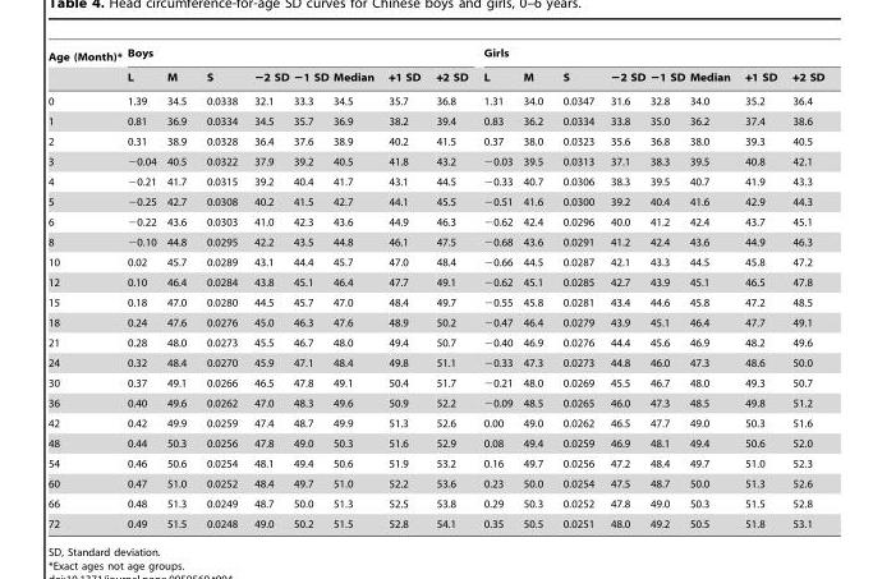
<table><thead><tr><td rowspan="2">Age (Month)*</td><td colspan="8">Boys</td><td colspan="8">Girls</td></tr><tr><td>L</td><td>M</td><td>S</td><td>−2 SD</td><td>−1 SD</td><td>Median</td><td>+1 SD</td><td>+2 SD</td><td>L</td><td>M</td><td>S</td><td>−2 SD</td><td>−1 SD</td><td>Median</td><td>+1 SD</td><td>+2 SD</td></tr></thead><tbody><tr><td>0</td><td>1.39</td><td>34.5</td><td>0.0338</td><td>32.1</td><td>33.3</td><td>34.5</td><td>35.7</td><td>36.8</td><td>1.31</td><td>34.0</td><td>0.0347</td><td>31.6</td><td>32.8</td><td>34.0</td><td>35.2</td><td>36.4</td></tr><tr><td>1</td><td>0.81</td><td>36.9</td><td>0.0334</td><td>34.5</td><td>35.7</td><td>36.9</td><td>38.2</td><td>39.4</td><td>0.83</td><td>36.2</td><td>0.0334</td><td>33.8</td><td>35.0</td><td>36.2</td><td>37.4</td><td>38.6</td></tr><tr><td>2</td><td>0.31</td><td>38.9</td><td>0.0328</td><td>36.4</td><td>37.6</td><td>38.9</td><td>40.2</td><td>41.5</td><td>0.37</td><td>38.0</td><td>0.0323</td><td>35.6</td><td>36.8</td><td>38.0</td><td>39.3</td><td>40.5</td></tr><tr><td>3</td><td>−0.04</td><td>40.5</td><td>0.0322</td><td>37.9</td><td>39.2</td><td>40.5</td><td>41.8</td><td>43.2</td><td>−0.03</td><td>39.5</td><td>0.0313</td><td>37.1</td><td>38.3</td><td>39.5</td><td>40.8</td><td>42.1</td></tr><tr><td>4</td><td>−0.21</td><td>41.7</td><td>0.0315</td><td>39.2</td><td>40.4</td><td>41.7</td><td>43.1</td><td>44.5</td><td>−0.33</td><td>40.7</td><td>0.0306</td><td>38.3</td><td>39.5</td><td>40.7</td><td>41.9</td><td>43.3</td></tr><tr><td>5</td><td>−0.25</td><td>42.7</td><td>0.0308</td><td>40.2</td><td>41.5</td><td>42.7</td><td>44.1</td><td>45.5</td><td>−0.51</td><td>41.6</td><td>0.0300</td><td>39.2</td><td>40.4</td><td>41.6</td><td>42.9</td><td>44.3</td></tr><tr><td>6</td><td>−0.22</td><td>43.6</td><td>0.0303</td><td>41.0</td><td>42.3</td><td>43.6</td><td>44.9</td><td>46.3</td><td>−0.62</td><td>42.4</td><td>0.0296</td><td>40.0</td><td>41.2</td><td>42.4</td><td>43.7</td><td>45.1</td></tr><tr><td>8</td><td>−0.10</td><td>44.8</td><td>0.0295</td><td>42.2</td><td>43.5</td><td>44.8</td><td>46.1</td><td>47.5</td><td>−0.68</td><td>43.6</td><td>0.0291</td><td>41.2</td><td>42.4</td><td>43.6</td><td>44.9</td><td>46.3</td></tr><tr><td>10</td><td>0.02</td><td>45.7</td><td>0.0289</td><td>43.1</td><td>44.4</td><td>45.7</td><td>47.0</td><td>48.4</td><td>−0.66</td><td>44.5</td><td>0.0287</td><td>42.1</td><td>43.3</td><td>44.5</td><td>45.8</td><td>47.2</td></tr><tr><td>12</td><td>0.10</td><td>46.4</td><td>0.0284</td><td>43.8</td><td>45.1</td><td>46.4</td><td>47.7</td><td>49.1</td><td>−0.62</td><td>45.1</td><td>0.0285</td><td>42.7</td><td>43.9</td><td>45.1</td><td>46.5</td><td>47.8</td></tr><tr><td>15</td><td>0.18</td><td>47.0</td><td>0.0280</td><td>44.5</td><td>45.7</td><td>47.0</td><td>48.4</td><td>49.7</td><td>−0.55</td><td>45.8</td><td>0.0281</td><td>43.4</td><td>44.6</td><td>45.8</td><td>47.2</td><td>48.5</td></tr><tr><td>18</td><td>0.24</td><td>47.6</td><td>0.0276</td><td>45.0</td><td>46.3</td><td>47.6</td><td>48.9</td><td>50.2</td><td>−0.47</td><td>46.4</td><td>0.0279</td><td>43.9</td><td>45.1</td><td>46.4</td><td>47.7</td><td>49.1</td></tr><tr><td>21</td><td>0.28</td><td>48.0</td><td>0.0273</td><td>45.5</td><td>46.7</td><td>48.0</td><td>49.4</td><td>50.7</td><td>−0.40</td><td>46.9</td><td>0.0276</td><td>44.4</td><td>45.6</td><td>46.9</td><td>48.2</td><td>49.6</td></tr><tr><td>24</td><td>0.32</td><td>48.4</td><td>0.0270</td><td>45.9</td><td>47.1</td><td>48.4</td><td>49.8</td><td>51.1</td><td>−0.33</td><td>47.3</td><td>0.0273</td><td>44.8</td><td>46.0</td><td>47.3</td><td>48.6</td><td>50.0</td></tr><tr><td>30</td><td>0.37</td><td>49.1</td><td>0.0266</td><td>46.5</td><td>47.8</td><td>49.1</td><td>50.4</td><td>51.7</td><td>−0.21</td><td>48.0</td><td>0.0269</td><td>45.5</td><td>46.7</td><td>48.0</td><td>49.3</td><td>50.7</td></tr><tr><td>36</td><td>0.40</td><td>49.6</td><td>0.0262</td><td>47.0</td><td>48.3</td><td>49.6</td><td>50.9</td><td>52.2</td><td>−0.09</td><td>48.5</td><td>0.0265</td><td>46.0</td><td>47.3</td><td>48.5</td><td>49.8</td><td>51.2</td></tr><tr><td>42</td><td>0.42</td><td>49.9</td><td>0.0259</td><td>47.4</td><td>48.7</td><td>49.9</td><td>51.3</td><td>52.6</td><td>0.00</td><td>49.0</td><td>0.0262</td><td>46.5</td><td>47.7</td><td>49.0</td><td>50.3</td><td>51.6</td></tr><tr><td>48</td><td>0.44</td><td>50.3</td><td>0.0256</td><td>47.8</td><td>49.0</td><td>50.3</td><td>51.6</td><td>52.9</td><td>0.08</td><td>49.4</td><td>0.0259</td><td>46.9</td><td>48.1</td><td>49.4</td><td>50.6</td><td>52.0</td></tr><tr><td>54</td><td>0.46</td><td>50.6</td><td>0.0254</td><td>48.1</td><td>49.4</td><td>50.6</td><td>51.9</td><td>53.2</td><td>0.16</td><td>49.7</td><td>0.0256</td><td>47.2</td><td>48.4</td><td>49.7</td><td>51.0</td><td>52.3</td></tr><tr><td>60</td><td>0.47</td><td>51.0</td><td>0.0252</td><td>48.4</td><td>49.7</td><td>51.0</td><td>52.2</td><td>53.6</td><td>0.23</td><td>50.0</td><td>0.0254</td><td>47.5</td><td>48.7</td><td>50.0</td><td>51.3</td><td>52.6</td></tr><tr><td>66</td><td>0.48</td><td>51.3</td><td>0.0249</td><td>48.7</td><td>50.0</td><td>51.3</td><td>52.5</td><td>53.8</td><td>0.29</td><td>50.3</td><td>0.0252</td><td>47.8</td><td>49.0</td><td>50.3</td><td>51.5</td><td>52.8</td></tr><tr><td>72</td><td>0.49</td><td>51.5</td><td>0.0248</td><td>49.0</td><td>50.2</td><td>51.5</td><td>52.8</td><td>54.1</td><td>0.35</td><td>50.5</td><td>0.0251</td><td>48.0</td><td>49.2</td><td>50.5</td><td>51.8</td><td>53.1</td></tr></tbody></table>